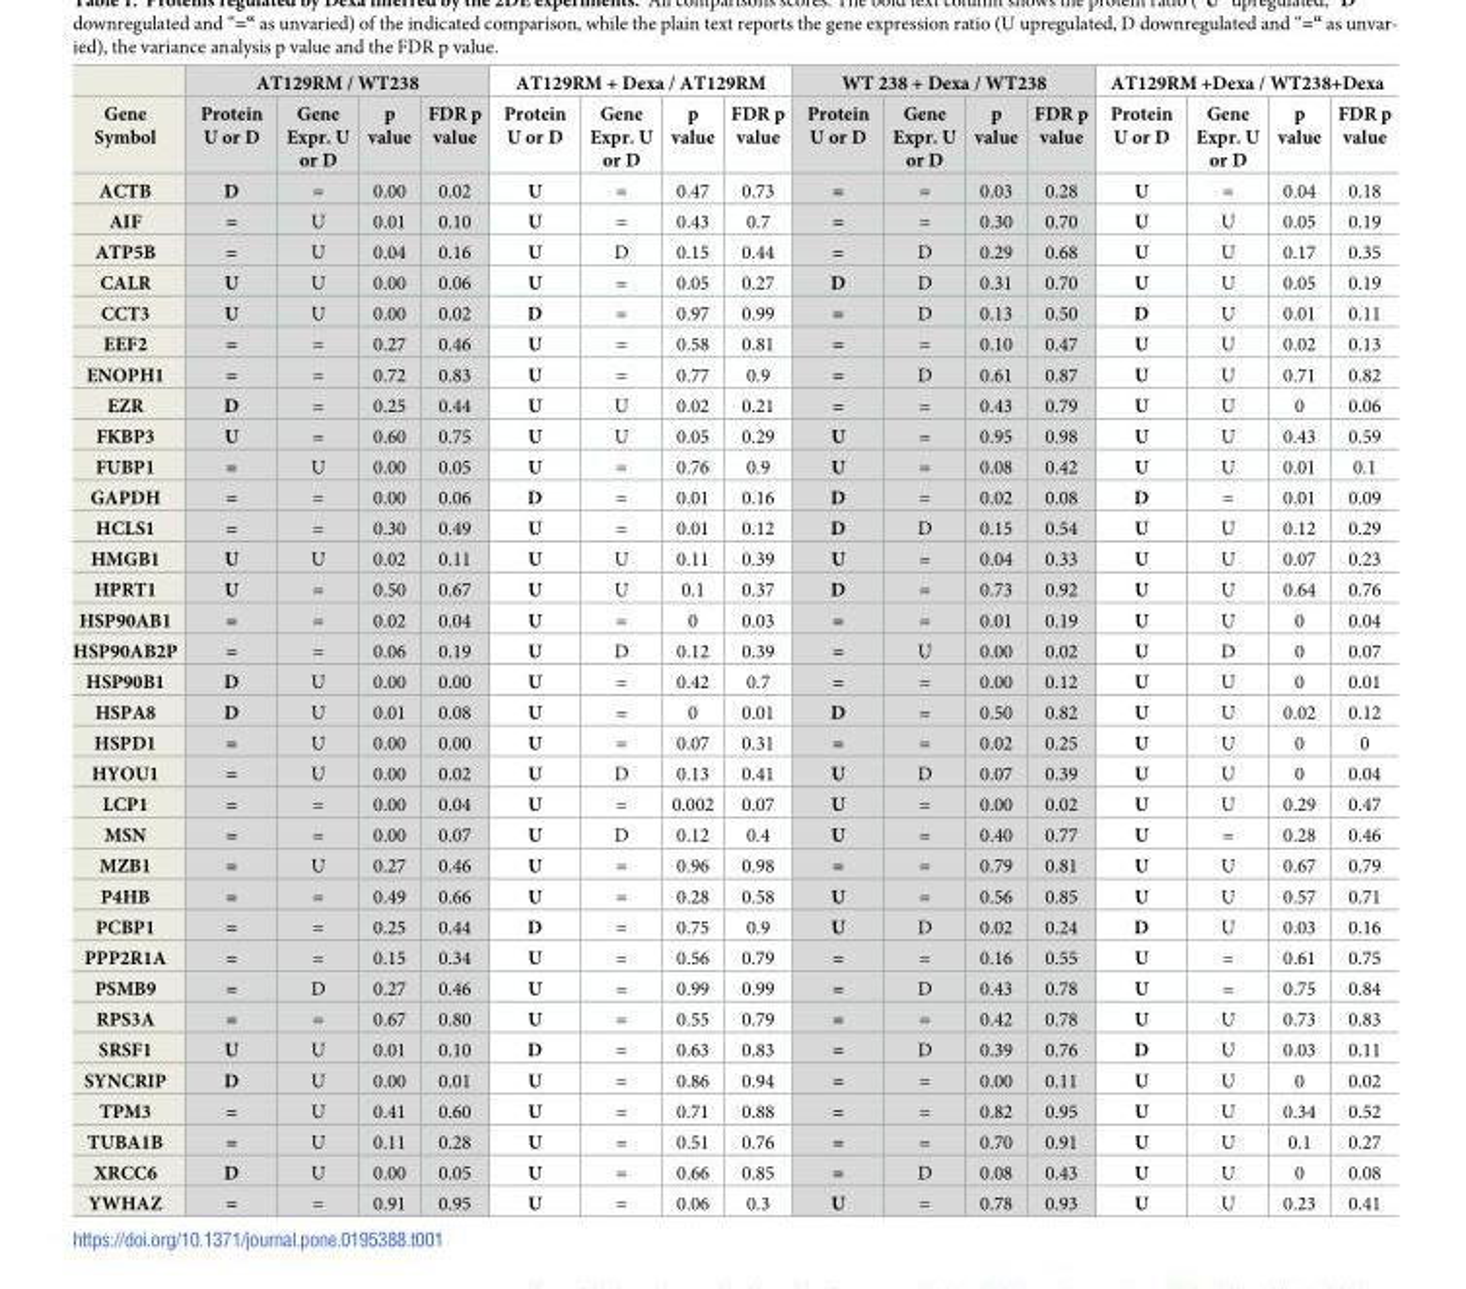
<table><thead><tr><td rowspan="2">Gene Symbol</td><td colspan="4">AT129RM / WT238</td><td colspan="4">AT129RM + Dexa / AT129RM</td><td colspan="4">WT 238 + Dexa / WT238</td><td colspan="4">AT129RM +Dexa / WT238+Dexa</td></tr><tr><td>Protein U or D</td><td>Gene Expr. U or D</td><td>p value</td><td>FDR p value</td><td>Protein U or D</td><td>Gene Expr. U or D</td><td>p value</td><td>FDR p value</td><td>Protein U or D</td><td>Gene Expr. U or D</td><td>p value</td><td>FDR p value</td><td>Protein U or D</td><td>Gene Expr. U or D</td><td>p value</td><td>FDR p value</td></tr></thead><tbody><tr><td>ACTB</td><td>D</td><td>=</td><td>0.00</td><td>0.02</td><td>U</td><td>=</td><td>0.47</td><td>0.73</td><td>=</td><td>=</td><td>0.03</td><td>0.28</td><td>U</td><td>=</td><td>0.04</td><td>0.18</td></tr><tr><td>AIF</td><td>=</td><td>U</td><td>0.01</td><td>0.10</td><td>U</td><td>=</td><td>0.43</td><td>0.7</td><td>=</td><td>=</td><td>0.30</td><td>0.70</td><td>U</td><td>U</td><td>0.05</td><td>0.19</td></tr><tr><td>ATP5B</td><td>=</td><td>U</td><td>0.04</td><td>0.16</td><td>U</td><td>D</td><td>0.15</td><td>0.44</td><td>=</td><td>D</td><td>0.29</td><td>0.68</td><td>U</td><td>U</td><td>0.17</td><td>0.35</td></tr><tr><td>CALR</td><td>U</td><td>U</td><td>0.00</td><td>0.06</td><td>U</td><td>=</td><td>0.05</td><td>0.27</td><td>D</td><td>D</td><td>0.31</td><td>0.70</td><td>U</td><td>U</td><td>0.05</td><td>0.19</td></tr><tr><td>CCT3</td><td>U</td><td>U</td><td>0.00</td><td>0.02</td><td>D</td><td>=</td><td>0.97</td><td>0.99</td><td>=</td><td>D</td><td>0.13</td><td>0.50</td><td>D</td><td>U</td><td>0.01</td><td>0.11</td></tr><tr><td>EEF2</td><td>=</td><td>=</td><td>0.27</td><td>0.46</td><td>U</td><td>=</td><td>0.58</td><td>0.81</td><td>=</td><td>=</td><td>0.10</td><td>0.47</td><td>U</td><td>U</td><td>0.02</td><td>0.13</td></tr><tr><td>ENOPH1</td><td>=</td><td>=</td><td>0.72</td><td>0.83</td><td>U</td><td>=</td><td>0.77</td><td>0.9</td><td>=</td><td>D</td><td>0.61</td><td>0.87</td><td>U</td><td>U</td><td>0.71</td><td>0.82</td></tr><tr><td>EZR</td><td>D</td><td>=</td><td>0.25</td><td>0.44</td><td>U</td><td>U</td><td>0.02</td><td>0.21</td><td>=</td><td>=</td><td>0.43</td><td>0.79</td><td>U</td><td>U</td><td>0</td><td>0.06</td></tr><tr><td>FKBP3</td><td>U</td><td>=</td><td>0.60</td><td>0.75</td><td>U</td><td>U</td><td>0.05</td><td>0.29</td><td>U</td><td>=</td><td>0.95</td><td>0.98</td><td>U</td><td>U</td><td>0.43</td><td>0.59</td></tr><tr><td>FUBP1</td><td>=</td><td>U</td><td>0.00</td><td>0.05</td><td>U</td><td>=</td><td>0.76</td><td>0.9</td><td>U</td><td>=</td><td>0.08</td><td>0.42</td><td>U</td><td>U</td><td>0.01</td><td>0.1</td></tr><tr><td>GAPDH</td><td>=</td><td>=</td><td>0.00</td><td>0.06</td><td>D</td><td>=</td><td>0.01</td><td>0.16</td><td>D</td><td>=</td><td>0.02</td><td>0.08</td><td>D</td><td>=</td><td>0.01</td><td>0.09</td></tr><tr><td>HCLS1</td><td>=</td><td>=</td><td>0.30</td><td>0.49</td><td>U</td><td>=</td><td>0.01</td><td>0.12</td><td>D</td><td>D</td><td>0.15</td><td>0.54</td><td>U</td><td>U</td><td>0.12</td><td>0.29</td></tr><tr><td>HMGB1</td><td>U</td><td>U</td><td>0.02</td><td>0.11</td><td>U</td><td>U</td><td>0.11</td><td>0.39</td><td>U</td><td>=</td><td>0.04</td><td>0.33</td><td>U</td><td>U</td><td>0.07</td><td>0.23</td></tr><tr><td>HPRT1</td><td>U</td><td>=</td><td>0.50</td><td>0.67</td><td>U</td><td>U</td><td>0.1</td><td>0.37</td><td>D</td><td>=</td><td>0.73</td><td>0.92</td><td>U</td><td>U</td><td>0.64</td><td>0.76</td></tr><tr><td>HSP90AB1</td><td>=</td><td>=</td><td>0.02</td><td>0.04</td><td>U</td><td>=</td><td>0</td><td>0.03</td><td>=</td><td>=</td><td>0.01</td><td>0.19</td><td>U</td><td>U</td><td>0</td><td>0.04</td></tr><tr><td>HSP90AB2P</td><td>=</td><td>=</td><td>0.06</td><td>0.19</td><td>U</td><td>D</td><td>0.12</td><td>0.39</td><td>=</td><td>U</td><td>0.00</td><td>0.02</td><td>U</td><td>D</td><td>0</td><td>0.07</td></tr><tr><td>HSP90B1</td><td>D</td><td>U</td><td>0.00</td><td>0.00</td><td>U</td><td>=</td><td>0.42</td><td>0.7</td><td>=</td><td>=</td><td>0.00</td><td>0.12</td><td>U</td><td>U</td><td>0</td><td>0.01</td></tr><tr><td>HSPA8</td><td>D</td><td>U</td><td>0.01</td><td>0.08</td><td>U</td><td>=</td><td>0</td><td>0.01</td><td>D</td><td>=</td><td>0.50</td><td>0.82</td><td>U</td><td>U</td><td>0.02</td><td>0.12</td></tr><tr><td>HSPD1</td><td>=</td><td>U</td><td>0.00</td><td>0.00</td><td>U</td><td>=</td><td>0.07</td><td>0.31</td><td>=</td><td>=</td><td>0.02</td><td>0.25</td><td>U</td><td>U</td><td>0</td><td>0</td></tr><tr><td>HYOU1</td><td>=</td><td>U</td><td>0.00</td><td>0.02</td><td>U</td><td>D</td><td>0.13</td><td>0.41</td><td>U</td><td>D</td><td>0.07</td><td>0.39</td><td>U</td><td>U</td><td>0</td><td>0.04</td></tr><tr><td>LCP1</td><td>=</td><td>=</td><td>0.00</td><td>0.04</td><td>U</td><td>=</td><td>0.002</td><td>0.07</td><td>U</td><td>=</td><td>0.00</td><td>0.02</td><td>U</td><td>U</td><td>0.29</td><td>0.47</td></tr><tr><td>MSN</td><td>=</td><td>=</td><td>0.00</td><td>0.07</td><td>U</td><td>D</td><td>0.12</td><td>0.4</td><td>U</td><td>=</td><td>0.40</td><td>0.77</td><td>U</td><td>=</td><td>0.28</td><td>0.46</td></tr><tr><td>MZB1</td><td>=</td><td>U</td><td>0.27</td><td>0.46</td><td>U</td><td>=</td><td>0.96</td><td>0.98</td><td>=</td><td>=</td><td>0.79</td><td>0.81</td><td>U</td><td>U</td><td>0.67</td><td>0.79</td></tr><tr><td>P4HB</td><td>=</td><td>=</td><td>0.49</td><td>0.66</td><td>U</td><td>=</td><td>0.28</td><td>0.58</td><td>U</td><td>=</td><td>0.56</td><td>0.85</td><td>U</td><td>U</td><td>0.57</td><td>0.71</td></tr><tr><td>PCBP1</td><td>=</td><td>=</td><td>0.25</td><td>0.44</td><td>D</td><td>=</td><td>0.75</td><td>0.9</td><td>U</td><td>D</td><td>0.02</td><td>0.24</td><td>D</td><td>U</td><td>0.03</td><td>0.16</td></tr><tr><td>PPP2R1A</td><td>=</td><td>=</td><td>0.15</td><td>0.34</td><td>U</td><td>=</td><td>0.56</td><td>0.79</td><td>=</td><td>=</td><td>0.16</td><td>0.55</td><td>U</td><td>=</td><td>0.61</td><td>0.75</td></tr><tr><td>PSMB9</td><td>=</td><td>D</td><td>0.27</td><td>0.46</td><td>U</td><td>=</td><td>0.99</td><td>0.99</td><td>=</td><td>D</td><td>0.43</td><td>0.78</td><td>U</td><td>=</td><td>0.75</td><td>0.84</td></tr><tr><td>RPS3A</td><td>=</td><td>=</td><td>0.67</td><td>0.80</td><td>U</td><td>=</td><td>0.55</td><td>0.79</td><td>=</td><td>=</td><td>0.42</td><td>0.78</td><td>U</td><td>U</td><td>0.73</td><td>0.83</td></tr><tr><td>SRSF1</td><td>U</td><td>U</td><td>0.01</td><td>0.10</td><td>D</td><td>=</td><td>0.63</td><td>0.83</td><td>=</td><td>D</td><td>0.39</td><td>0.76</td><td>D</td><td>U</td><td>0.03</td><td>0.11</td></tr><tr><td>SYNCRIP</td><td>D</td><td>U</td><td>0.00</td><td>0.01</td><td>U</td><td>=</td><td>0.86</td><td>0.94</td><td>=</td><td>=</td><td>0.00</td><td>0.11</td><td>U</td><td>U</td><td>0</td><td>0.02</td></tr><tr><td>TPM3</td><td>=</td><td>U</td><td>0.41</td><td>0.60</td><td>U</td><td>=</td><td>0.71</td><td>0.88</td><td>=</td><td>=</td><td>0.82</td><td>0.95</td><td>U</td><td>U</td><td>0.34</td><td>0.52</td></tr><tr><td>TUBA1B</td><td>=</td><td>U</td><td>0.11</td><td>0.28</td><td>U</td><td>=</td><td>0.51</td><td>0.76</td><td>=</td><td>=</td><td>0.70</td><td>0.91</td><td>U</td><td>U</td><td>0.1</td><td>0.27</td></tr><tr><td>XRCC6</td><td>D</td><td>U</td><td>0.00</td><td>0.05</td><td>U</td><td>=</td><td>0.66</td><td>0.85</td><td>=</td><td>D</td><td>0.08</td><td>0.43</td><td>U</td><td>U</td><td>0</td><td>0.08</td></tr><tr><td>YWHAZ</td><td>=</td><td>=</td><td>0.91</td><td>0.95</td><td>U</td><td>=</td><td>0.06</td><td>0.3</td><td>U</td><td>=</td><td>0.78</td><td>0.93</td><td>U</td><td>U</td><td>0.23</td><td>0.41</td></tr></tbody></table>